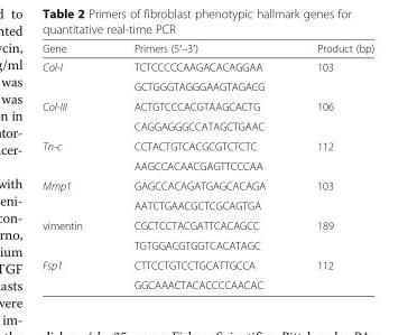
<table><thead><tr><td>Gene</td><td>Primers (5′–3′)</td><td>Product (bp)</td></tr></thead><tbody><tr><td rowspan="2">Col-I</td><td>TCTCCCCCAAGACACAGGAA</td><td rowspan="2">103</td></tr><tr><td>GCTGGGTAGGGAAGTAGACG</td></tr><tr><td rowspan="2">Col-III</td><td>ACTGTCCCACGTAAGCACTG</td><td rowspan="2">106</td></tr><tr><td>CAGGAGGGCCATAGCTGAAC</td></tr><tr><td rowspan="2">Tn-c</td><td>CCTACTGTCACGCGTCTCTC</td><td rowspan="2">112</td></tr><tr><td>AAGCCACAACGAGTTCCCAA</td></tr><tr><td rowspan="2">Mmp1</td><td>GAGCCACAGATGAGCACAGA</td><td rowspan="2">103</td></tr><tr><td>AATCTGAACGCTCGCAGTGA</td></tr><tr><td rowspan="2">vimentin</td><td>CGCTCCTACGATTCACAGCC</td><td rowspan="2">189</td></tr><tr><td>TGTGGACGTGGTCACATAGC</td></tr><tr><td rowspan="2">Fsp1</td><td>CTTCCTGTCCTGCATTGCCA</td><td rowspan="2">112</td></tr><tr><td>GGCAAACTACACCCCAACAC</td></tr></tbody></table>